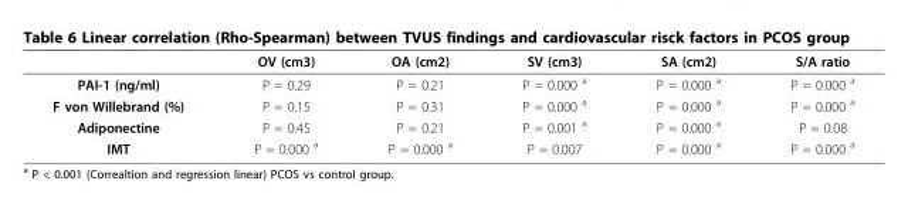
<table><thead><tr><td></td><td>OV (cm3)</td><td>OA (cm2)</td><td>SV (cm3)</td><td>SA (cm2)</td><td>S/A ratio</td></tr></thead><tbody><tr><td>PAI-1 (ng/ml)</td><td>P = 0.29</td><td>P = 0.21</td><td>P = 0.000 <sup>a</sup></td><td>P = 0.000 <sup>a</sup></td><td>P = 0.000 <sup>a</sup></td></tr><tr><td>F von Willebrand (%)</td><td>P = 0.15</td><td>P = 0.31</td><td>P = 0.000 <sup>a</sup></td><td>P = 0.000 <sup>a</sup></td><td>P = 0.000 <sup>a</sup></td></tr><tr><td>Adiponectine</td><td>P = 0.45</td><td>P = 0.21</td><td>P = 0.001 <sup>a</sup></td><td>P = 0.000 <sup>a</sup></td><td>P = 0.08</td></tr><tr><td>IMT</td><td>P = 0.000 <sup>a</sup></td><td>P = 0.000 <sup>a</sup></td><td>P = 0.007</td><td>P = 0.000 <sup>a</sup></td><td>P = 0.000 <sup>a</sup></td></tr></tbody></table>